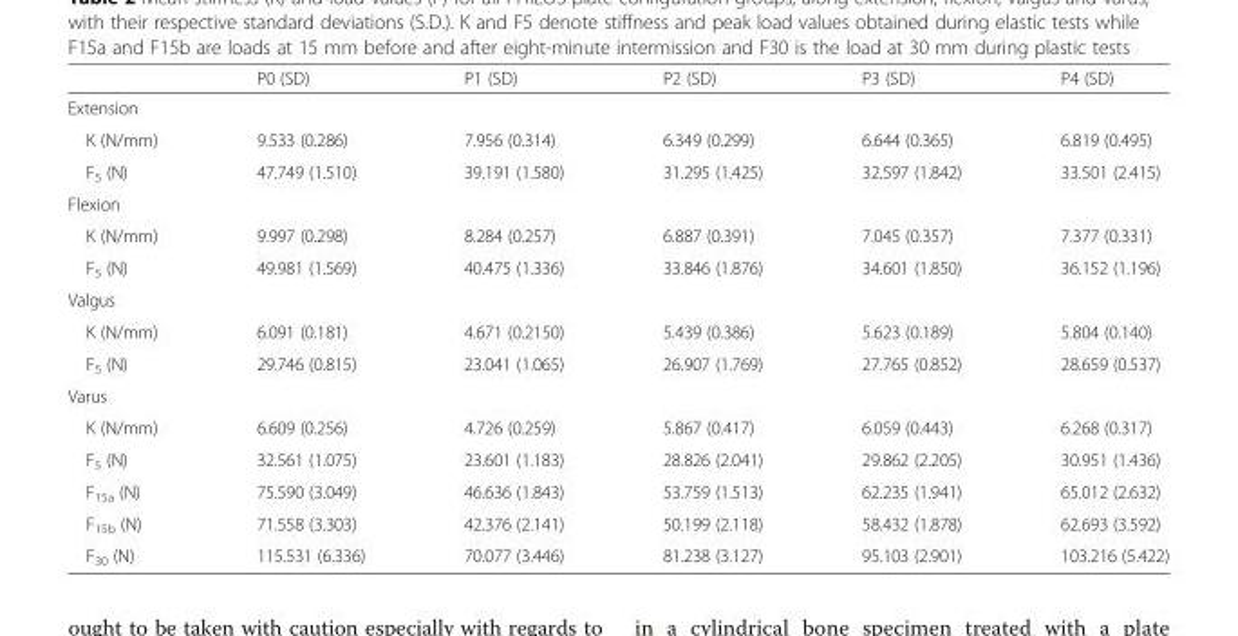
<table><thead><tr><td></td><td>P0 (SD)</td><td>P1 (SD)</td><td>P2 (SD)</td><td>P3 (SD)</td><td>P4 (SD)</td></tr></thead><tbody><tr><td colspan="6">Extension</td></tr><tr><td>K (N/mm)</td><td>9.533 (0.286)</td><td>7.956 (0.314)</td><td>6.349 (0.299)</td><td>6.644 (0.365)</td><td>6.819 (0.495)</td></tr><tr><td>F<sub>5</sub> (N)</td><td>47.749 (1.510)</td><td>39.191 (1.580)</td><td>31.295 (1.425)</td><td>32.597 (1.842)</td><td>33.501 (2.415)</td></tr><tr><td colspan="6">Flexion</td></tr><tr><td>K (N/mm)</td><td>9.997 (0.298)</td><td>8.284 (0.257)</td><td>6.887 (0.391)</td><td>7.045 (0.357)</td><td>7.377 (0.331)</td></tr><tr><td>F<sub>5</sub> (N)</td><td>49.981 (1.569)</td><td>40.475 (1.336)</td><td>33.846 (1.876)</td><td>34.601 (1.850)</td><td>36.152 (1.196)</td></tr><tr><td colspan="6">Valgus</td></tr><tr><td>K (N/mm)</td><td>6.091 (0.181)</td><td>4.671 (0.2150)</td><td>5.439 (0.386)</td><td>5.623 (0.189)</td><td>5.804 (0.140)</td></tr><tr><td>F<sub>5</sub> (N)</td><td>29.746 (0.815)</td><td>23.041 (1.065)</td><td>26.907 (1.769)</td><td>27.765 (0.852)</td><td>28.659 (0.537)</td></tr><tr><td colspan="6">Varus</td></tr><tr><td>K (N/mm)</td><td>6.609 (0.256)</td><td>4.726 (0.259)</td><td>5.867 (0.417)</td><td>6.059 (0.443)</td><td>6.268 (0.317)</td></tr><tr><td>F<sub>5</sub> (N)</td><td>32.561 (1.075)</td><td>23.601 (1.183)</td><td>28.826 (2.041)</td><td>29.862 (2.205)</td><td>30.951 (1.436)</td></tr><tr><td>F<sub>15a</sub> (N)</td><td>75.590 (3.049)</td><td>46.636 (1.843)</td><td>53.759 (1.513)</td><td>62.235 (1.941)</td><td>65.012 (2.632)</td></tr><tr><td>F<sub>15b</sub> (N)</td><td>71.558 (3.303)</td><td>42.376 (2.141)</td><td>50.199 (2.118)</td><td>58.432 (1.878)</td><td>62.693 (3.592)</td></tr><tr><td>F<sub>30</sub> (N)</td><td>115.531 (6.336)</td><td>70.077 (3.446)</td><td>81.238 (3.127)</td><td>95.103 (2.901)</td><td>103.216 (5.422)</td></tr></tbody></table>